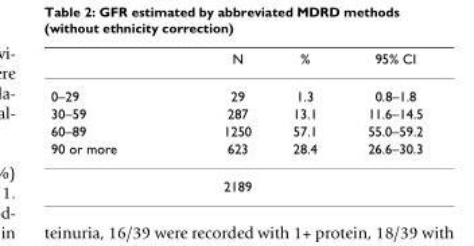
<table><thead><tr><td></td><td>N</td><td>%</td><td>95% CI</td></tr></thead><tbody><tr><td>0–29</td><td>29</td><td>1.3</td><td>0.8–1.8</td></tr><tr><td>30–59</td><td>287</td><td>13.1</td><td>11.6–14.5</td></tr><tr><td>60–89</td><td>1250</td><td>57.1</td><td>55.0–59.2</td></tr><tr><td rowspan="2">90 or more</td><td>623</td><td>28.4</td><td>26.6–30.3</td></tr><tr><td>2189</td><td></td><td></td></tr></tbody></table>